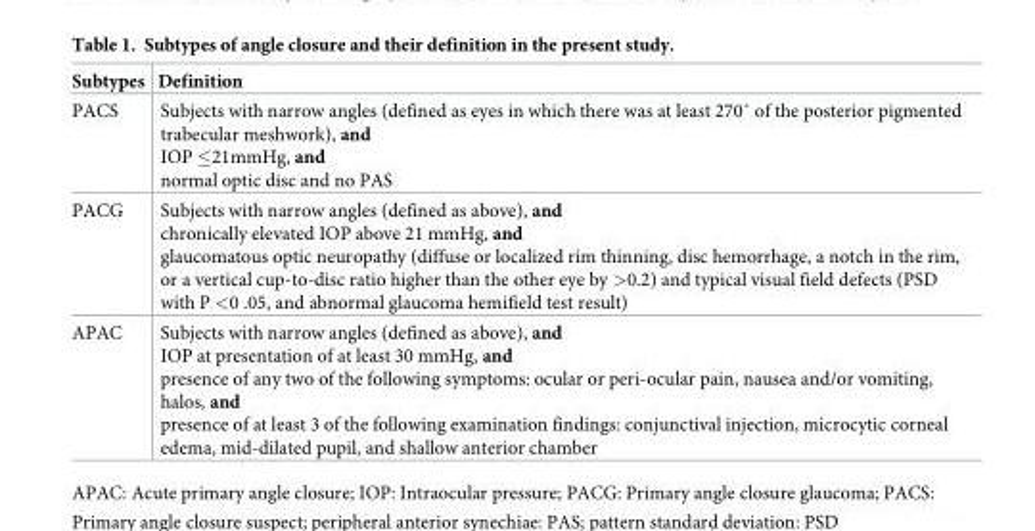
<table><thead><tr><td>Subtypes</td><td>Definition</td></tr></thead><tbody><tr><td>PACS</td><td>Subjects with narrow angles (defined as eyes in which there was at least 270˚ of the posterior pigmented trabecular meshwork), and IOP ≤21mmHg, and normal optic disc and no PAS</td></tr><tr><td>PACG</td><td>Subjects with narrow angles (defined as above), and chronically elevated IOP above 21 mmHg, and glaucomatous optic neuropathy (diffuse or localized rim thinning, disc hemorrhage, a notch in the rim, or a vertical cup-to-disc ratio higher than the other eye by &gt;0.2) and typical visual field defects (PSD with P &lt;0 .05, and abnormal glaucoma hemifield test result)</td></tr><tr><td>APAC</td><td>Subjects with narrow angles (defined as above), and IOP at presentation of at least 30 mmHg, and presence of any two of the following symptoms: ocular or peri-ocular pain, nausea and/or vomiting, halos, and presence of at least 3 of the following examination findings: conjunctival injection, microcytic corneal edema, mid-dilated pupil, and shallow anterior chamber</td></tr></tbody></table>